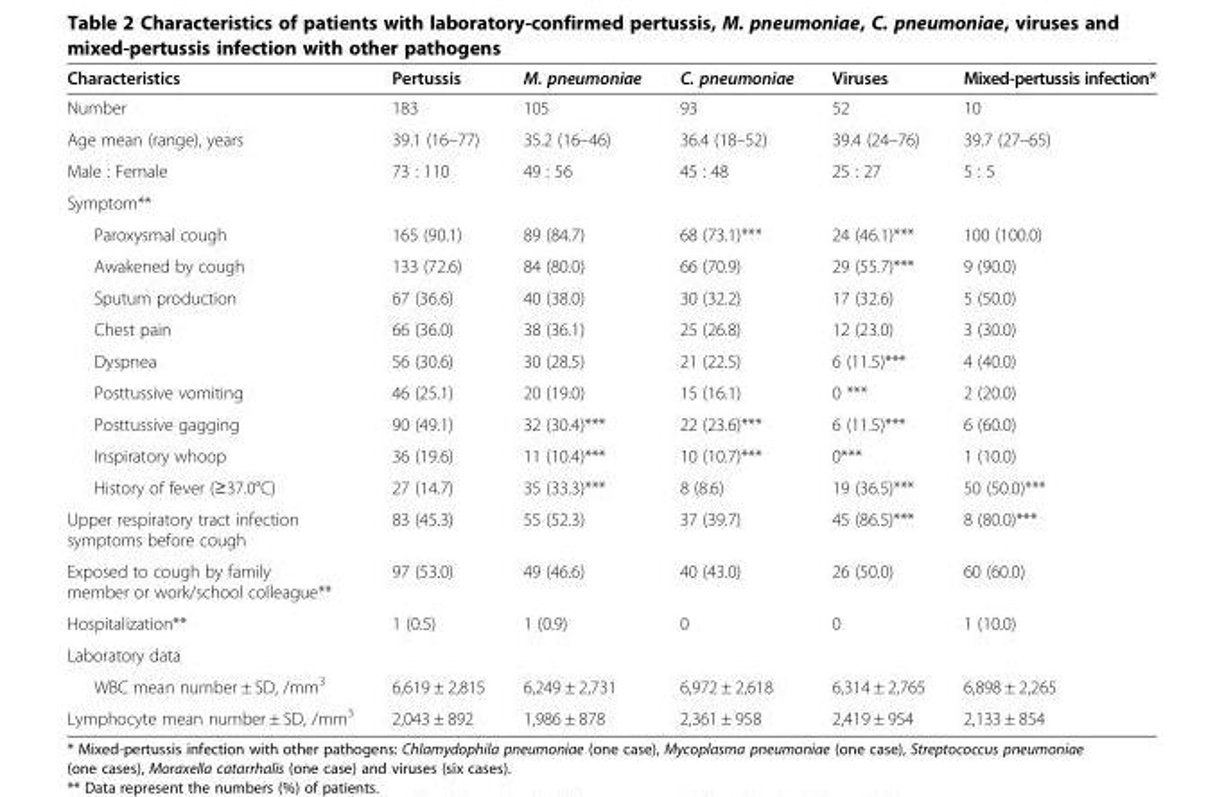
<table><thead><tr><td>Characteristics</td><td>Pertussis</td><td>M. pneumoniae</td><td>C. pneumoniae</td><td>Viruses</td><td>Mixed-pertussis infection*</td></tr></thead><tbody><tr><td>Number</td><td>183</td><td>105</td><td>93</td><td>52</td><td>10</td></tr><tr><td>Age mean (range), years</td><td>39.1 (16–77)</td><td>35.2 (16–46)</td><td>36.4 (18–52)</td><td>39.4 (24–76)</td><td>39.7 (27–65)</td></tr><tr><td>Male : Female</td><td>73 : 110</td><td>49 : 56</td><td>45 : 48</td><td>25 : 27</td><td>5 : 5</td></tr><tr><td colspan="6">Symptom**</td></tr><tr><td>Paroxysmal cough</td><td>165 (90.1)</td><td>89 (84.7)</td><td>68 (73.1)***</td><td>24 (46.1)***</td><td>100 (100.0)</td></tr><tr><td>Awakened by cough</td><td>133 (72.6)</td><td>84 (80.0)</td><td>66 (70.9)</td><td>29 (55.7)***</td><td>9 (90.0)</td></tr><tr><td>Sputum production</td><td>67 (36.6)</td><td>40 (38.0)</td><td>30 (32.2)</td><td>17 (32.6)</td><td>5 (50.0)</td></tr><tr><td>Chest pain</td><td>66 (36.0)</td><td>38 (36.1)</td><td>25 (26.8)</td><td>12 (23.0)</td><td>3 (30.0)</td></tr><tr><td>Dyspnea</td><td>56 (30.6)</td><td>30 (28.5)</td><td>21 (22.5)</td><td>6 (11.5)***</td><td>4 (40.0)</td></tr><tr><td>Posttussive vomiting</td><td>46 (25.1)</td><td>20 (19.0)</td><td>15 (16.1)</td><td>0 ***</td><td>2 (20.0)</td></tr><tr><td>Posttussive gagging</td><td>90 (49.1)</td><td>32 (30.4)***</td><td>22 (23.6)***</td><td>6 (11.5)***</td><td>6 (60.0)</td></tr><tr><td>Inspiratory whoop</td><td>36 (19.6)</td><td>11 (10.4)***</td><td>10 (10.7)***</td><td>0***</td><td>1 (10.0)</td></tr><tr><td>History of fever (≥37.0°C)</td><td>27 (14.7)</td><td>35 (33.3)***</td><td>8 (8.6)</td><td>19 (36.5)***</td><td>50 (50.0)***</td></tr><tr><td>Upper respiratory tract infection symptoms before cough</td><td>83 (45.3)</td><td>55 (52.3)</td><td>37 (39.7)</td><td>45 (86.5)***</td><td>8 (80.0)***</td></tr><tr><td>Exposed to cough by family member or work/school colleague**</td><td>97 (53.0)</td><td>49 (46.6)</td><td>40 (43.0)</td><td>26 (50.0)</td><td>60 (60.0)</td></tr><tr><td>Hospitalization**</td><td>1 (0.5)</td><td>1 (0.9)</td><td>0</td><td>0</td><td>1 (10.0)</td></tr><tr><td colspan="6">Laboratory data</td></tr><tr><td>WBC mean number ± SD, /mm<sup>3</sup></td><td>6,619 ± 2,815</td><td>6,249 ± 2,731</td><td>6,972 ± 2,618</td><td>6,314 ± 2,765</td><td>6,898 ± 2,265</td></tr><tr><td>Lymphocyte mean number ± SD, /mm<sup>3</sup></td><td>2,043 ± 892</td><td>1,986 ± 878</td><td>2,361 ± 958</td><td>2,419 ± 954</td><td>2,133 ± 854</td></tr></tbody></table>